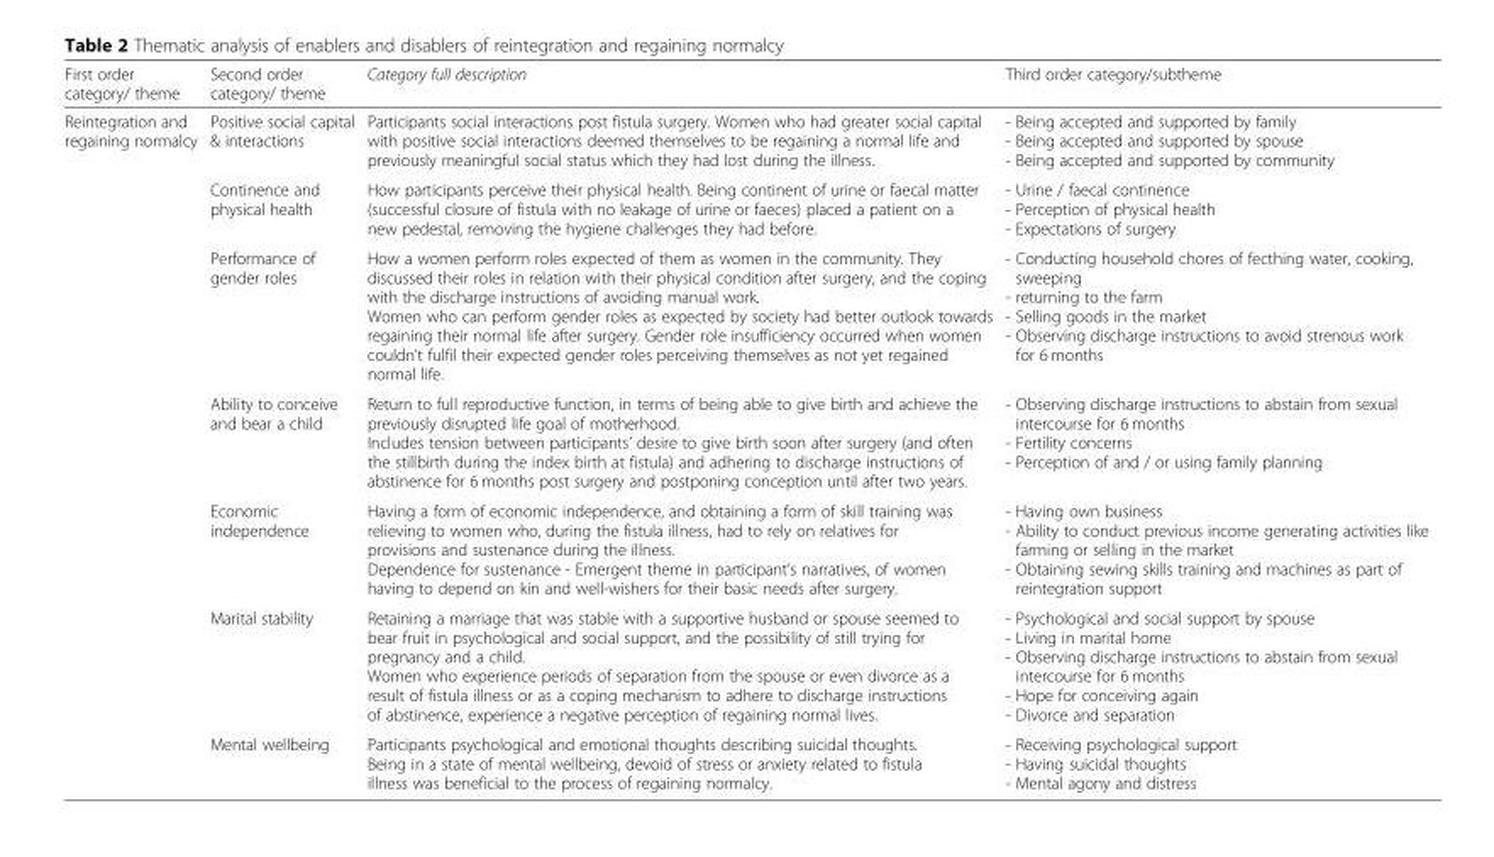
<table><thead><tr><td>First order category/ theme</td><td>Second order category/ theme</td><td>Category full description</td><td>Third order category/subtheme</td></tr></thead><tbody><tr><td rowspan="7">Reintegration and regaining normalcy</td><td>Positive social capital &amp; interactions</td><td>Participants social interactions post fistula surgery. Women who had greater social capital with positive social interactions deemed themselves to be regaining a normal life and previously meaningful social status which they had lost during the illness.</td><td>- Being accepted and supported by family - Being accepted and supported by spouse - Being accepted and supported by community</td></tr><tr><td>Continence and physical health</td><td>How participants perceive their physical health. Being continent of urine or faecal matter (successful closure of fistula with no leakage of urine or faeces) placed a patient on a new pedestal, removing the hygiene challenges they had before.</td><td>- Urine / faecal continence - Perception of physical health - Expectations of surgery</td></tr><tr><td>Performance of gender roles</td><td>How a women perform roles expected of them as women in the community. They discussed their roles in relation with their physical condition after surgery, and the coping with the discharge instructions of avoiding manual work. Women who can perform gender roles as expected by society had better outlook towards regaining their normal life after surgery. Gender role insufficiency occurred when women couldn’t fulfil their expected gender roles perceiving themselves as not yet regained normal life.</td><td>- Conducting household chores of fecthing water, cooking, sweeping - returning to the farm - Selling goods in the market - Observing discharge instructions to avoid strenous work for 6 months</td></tr><tr><td>Ability to conceive and bear a child</td><td>Return to full reproductive function, in terms of being able to give birth and achieve the previously disrupted life goal of motherhood. Includes tension between participants’ desire to give birth soon after surgery (and often the stillbirth during the index birth at fistula) and adhering to discharge instructions of abstinence for 6 months post surgery and postponing conception until after two years.</td><td>- Observing discharge instructions to abstain from sexual intercourse for 6 months - Fertility concerns - Perception of and / or using family planning</td></tr><tr><td>Economic independence</td><td>Having a form of economic independence, and obtaining a form of skill training was relieving to women who, during the fistula illness, had to rely on relatives for provisions and sustenance during the illness. Dependence for sustenance - Emergent theme in participant’s narratives, of women having to depend on kin and well-wishers for their basic needs after surgery.</td><td>- Having own business - Ability to conduct previous income generating activities like farming or selling in the market - Obtaining sewing skills training and machines as part of reintegration support</td></tr><tr><td>Marital stability</td><td>Retaining a marriage that was stable with a supportive husband or spouse seemed to bear fruit in psychological and social support, and the possibility of still trying for pregnancy and a child. Women who experience periods of separation from the spouse or even divorce as a result of fistula illness or as a coping mechanism to adhere to discharge instructions of abstinence, experience a negative perception of regaining normal lives.</td><td>- Psychological and social support by spouse - Living in marital home - Observing discharge instructions to abstain from sexual intercourse for 6 months - Hope for conceiving again - Divorce and separation</td></tr><tr><td>Mental wellbeing</td><td>Participants psychological and emotional thoughts describing suicidal thoughts. Being in a state of mental wellbeing, devoid of stress or anxiety related to fistula illness was beneficial to the process of regaining normalcy.</td><td>- Receiving psychological support - Having suicidal thoughts - Mental agony and distress</td></tr></tbody></table>